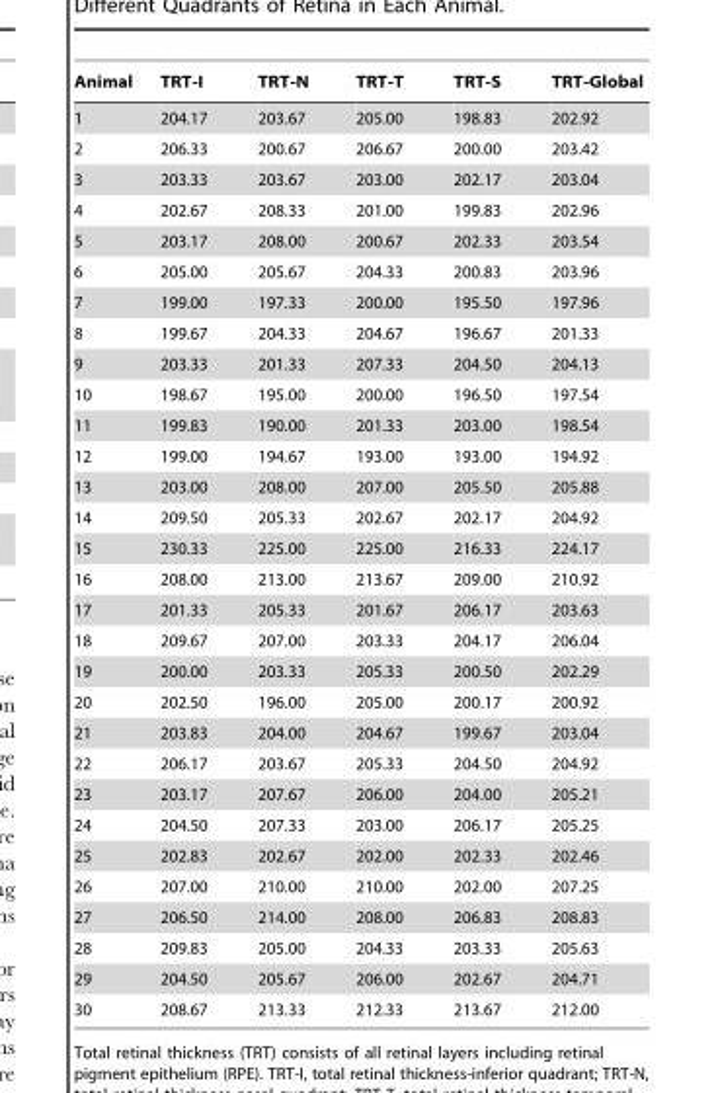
<table><thead><tr><td>Animal</td><td>TRT-I</td><td>TRT-N</td><td>TRT-T</td><td>TRT-S</td><td>TRT-Global</td></tr></thead><tbody><tr><td>1</td><td>204.17</td><td>203.67</td><td>205.00</td><td>198.83</td><td>202.92</td></tr><tr><td>2</td><td>206.33</td><td>200.67</td><td>206.67</td><td>200.00</td><td>203.42</td></tr><tr><td>3</td><td>203.33</td><td>203.67</td><td>203.00</td><td>202.17</td><td>203.04</td></tr><tr><td>4</td><td>202.67</td><td>208.33</td><td>201.00</td><td>199.83</td><td>202.96</td></tr><tr><td>5</td><td>203.17</td><td>208.00</td><td>200.67</td><td>202.33</td><td>203.54</td></tr><tr><td>6</td><td>205.00</td><td>205.67</td><td>204.33</td><td>200.83</td><td>203.96</td></tr><tr><td>7</td><td>199.00</td><td>197.33</td><td>200.00</td><td>195.50</td><td>197.96</td></tr><tr><td>8</td><td>199.67</td><td>204.33</td><td>204.67</td><td>196.67</td><td>201.33</td></tr><tr><td>9</td><td>203.33</td><td>201.33</td><td>207.33</td><td>204.50</td><td>204.13</td></tr><tr><td>10</td><td>198.67</td><td>195.00</td><td>200.00</td><td>196.50</td><td>197.54</td></tr><tr><td>11</td><td>199.83</td><td>190.00</td><td>201.33</td><td>203.00</td><td>198.54</td></tr><tr><td>12</td><td>199.00</td><td>194.67</td><td>193.00</td><td>193.00</td><td>194.92</td></tr><tr><td>13</td><td>203.00</td><td>208.00</td><td>207.00</td><td>205.50</td><td>205.88</td></tr><tr><td>14</td><td>209.50</td><td>205.33</td><td>202.67</td><td>202.17</td><td>204.92</td></tr><tr><td>15</td><td>230.33</td><td>225.00</td><td>225.00</td><td>216.33</td><td>224.17</td></tr><tr><td>16</td><td>208.00</td><td>213.00</td><td>213.67</td><td>209.00</td><td>210.92</td></tr><tr><td>17</td><td>201.33</td><td>205.33</td><td>201.67</td><td>206.17</td><td>203.63</td></tr><tr><td>18</td><td>209.67</td><td>207.00</td><td>203.33</td><td>204.17</td><td>206.04</td></tr><tr><td>19</td><td>200.00</td><td>203.33</td><td>205.33</td><td>200.50</td><td>202.29</td></tr><tr><td>20</td><td>202.50</td><td>196.00</td><td>205.00</td><td>200.17</td><td>200.92</td></tr><tr><td>21</td><td>203.83</td><td>204.00</td><td>204.67</td><td>199.67</td><td>203.04</td></tr><tr><td>22</td><td>206.17</td><td>203.67</td><td>205.33</td><td>204.50</td><td>204.92</td></tr><tr><td>23</td><td>203.17</td><td>207.67</td><td>206.00</td><td>204.00</td><td>205.21</td></tr><tr><td>24</td><td>204.50</td><td>207.33</td><td>203.00</td><td>206.17</td><td>205.25</td></tr><tr><td>25</td><td>202.83</td><td>202.67</td><td>202.00</td><td>202.33</td><td>202.46</td></tr><tr><td>26</td><td>207.00</td><td>210.00</td><td>210.00</td><td>202.00</td><td>207.25</td></tr><tr><td>27</td><td>206.50</td><td>214.00</td><td>208.00</td><td>206.83</td><td>208.83</td></tr><tr><td>28</td><td>209.83</td><td>205.00</td><td>204.33</td><td>203.33</td><td>205.63</td></tr><tr><td>29</td><td>204.50</td><td>205.67</td><td>206.00</td><td>202.67</td><td>204.71</td></tr><tr><td>30</td><td>208.67</td><td>213.33</td><td>212.33</td><td>213.67</td><td>212.00</td></tr></tbody></table>